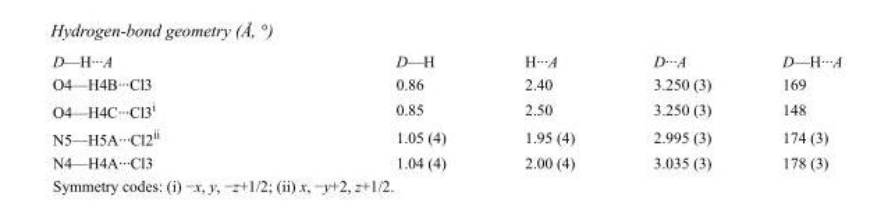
<table><tbody><tr><td>D—H···A</td><td>D—H</td><td>H···A</td><td>D···A</td><td>D—H···A</td></tr><tr><td>O4—H4B···Cl3</td><td>0.86</td><td>2.40</td><td>3.250 (3)</td><td>169</td></tr><tr><td>O4—H4C···Cl3<sup>i</sup></td><td>0.85</td><td>2.50</td><td>3.250 (3)</td><td>148</td></tr><tr><td>N5—H5A···Cl2<sup>ii</sup></td><td>1.05 (4)</td><td>1.95 (4)</td><td>2.995 (3)</td><td>174 (3)</td></tr><tr><td>N4—H4A···Cl3</td><td>1.04 (4)</td><td>2.00 (4)</td><td>3.035 (3)</td><td>178 (3)</td></tr></tbody></table>